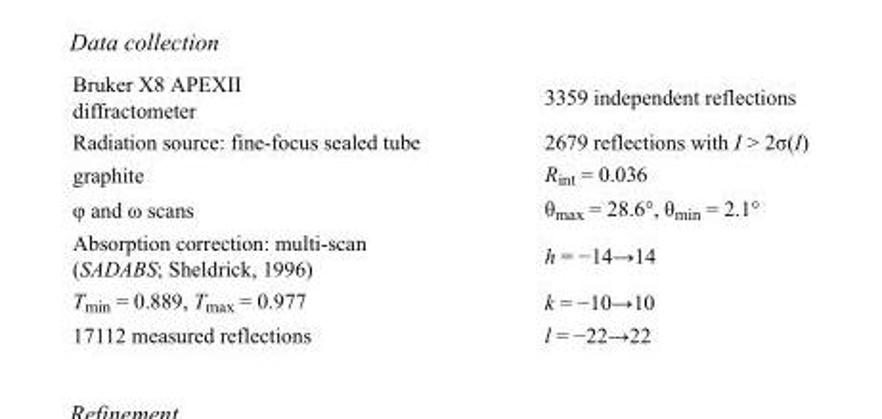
<table><tbody><tr><td>Bruker X8 APEXII diffractometer</td><td>3359 independent reflections</td></tr><tr><td>Radiation source: fine-focus sealed tube</td><td>2679 reflections with I &gt; 2σ(I)</td></tr><tr><td>graphite</td><td>R<sub>int</sub> = 0.036</td></tr><tr><td>φ and ω scans</td><td>θ<sub>max</sub> = 28.6°, θ<sub>min</sub> = 2.1°</td></tr><tr><td>Absorption correction: multi-scan (SADABS; Sheldrick, 1996)</td><td>h = −14→14</td></tr><tr><td>T<sub>min</sub> = 0.889, T<sub>max</sub> = 0.977</td><td>k = −10→10</td></tr><tr><td>17112 measured reflections</td><td>l = −22→22</td></tr></tbody></table>